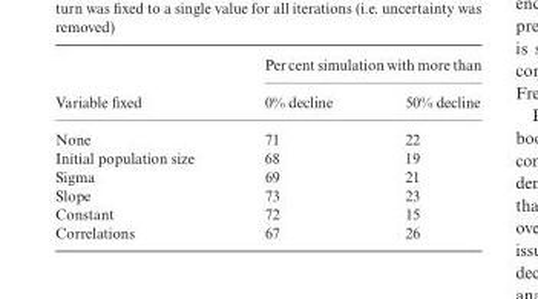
<table><thead><tr><td rowspan="2">Variable fixed</td><td colspan="2">Per cent simulation with more than</td></tr><tr><td>0% decline</td><td>50% decline</td></tr></thead><tbody><tr><td>None</td><td>71</td><td>22</td></tr><tr><td>Initial population size</td><td>68</td><td>19</td></tr><tr><td>Sigma</td><td>69</td><td>21</td></tr><tr><td>Slope</td><td>73</td><td>23</td></tr><tr><td>Constant</td><td>72</td><td>15</td></tr><tr><td>Correlations</td><td>67</td><td>26</td></tr></tbody></table>